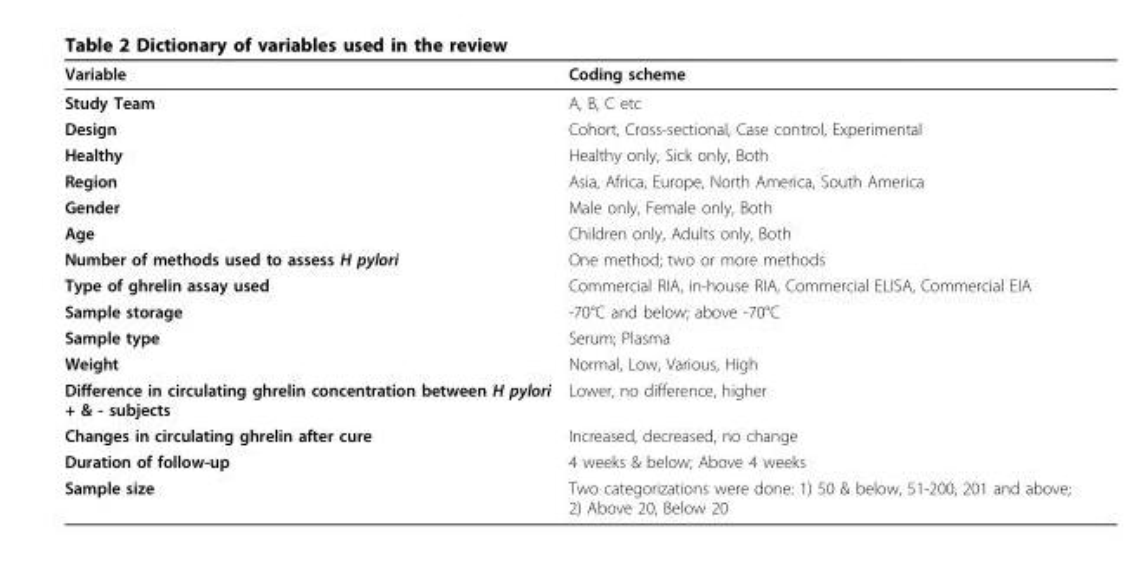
<table><thead><tr><td>Variable</td><td>Coding scheme</td></tr></thead><tbody><tr><td>Study Team</td><td>A, B, C etc</td></tr><tr><td>Design</td><td>Cohort, Cross-sectional, Case control, Experimental</td></tr><tr><td>Healthy</td><td>Healthy only, Sick only, Both</td></tr><tr><td>Region</td><td>Asia, Africa, Europe, North America, South America</td></tr><tr><td>Gender</td><td>Male only, Female only, Both</td></tr><tr><td>Age</td><td>Children only, Adults only, Both</td></tr><tr><td>Number of methods used to assess H pylori</td><td>One method; two or more methods</td></tr><tr><td>Type of ghrelin assay used</td><td>Commercial RIA, in-house RIA, Commercial ELISA, Commercial EIA</td></tr><tr><td>Sample storage</td><td>-70°C and below; above -70°C</td></tr><tr><td>Sample type</td><td>Serum; Plasma</td></tr><tr><td>Weight</td><td>Normal, Low, Various, High</td></tr><tr><td>Difference in circulating ghrelin concentration between H pylori + &amp; - subjects</td><td>Lower, no difference, higher</td></tr><tr><td>Changes in circulating ghrelin after cure</td><td>Increased, decreased, no change</td></tr><tr><td>Duration of follow-up</td><td>4 weeks &amp; below; Above 4 weeks</td></tr><tr><td>Sample size</td><td>Two categorizations were done: 1) 50 &amp; below, 51-200, 201 and above; 2) Above 20, Below 20</td></tr></tbody></table>